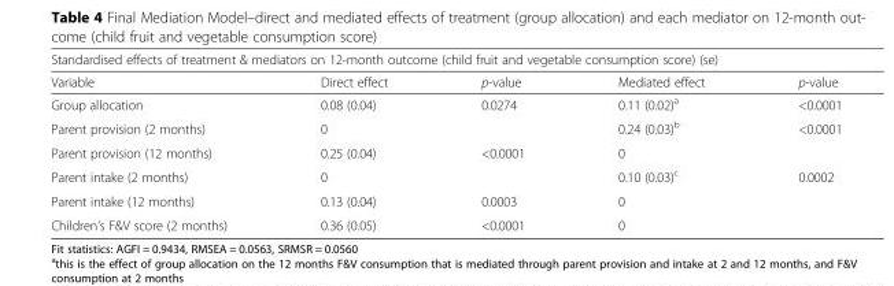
<table><thead><tr><td colspan="5">Standardised effects of treatment &amp; mediators on 12-month outcome (child fruit and vegetable consumption score) (se)</td></tr><tr><td>Variable</td><td>Direct effect</td><td>p-value</td><td>Mediated effect</td><td>p-value</td></tr></thead><tbody><tr><td>Group allocation</td><td>0.08 (0.04)</td><td>0.0274</td><td>0.11 (0.02)<sup>a</sup></td><td>&lt;0.0001</td></tr><tr><td>Parent provision (2 months)</td><td>0</td><td></td><td>0.24 (0.03)<sup>b</sup></td><td>&lt;0.0001</td></tr><tr><td>Parent provision (12 months)</td><td>0.25 (0.04)</td><td>&lt;0.0001</td><td>0</td><td></td></tr><tr><td>Parent intake (2 months)</td><td>0</td><td></td><td>0.10 (0.03)<sup>c</sup></td><td>0.0002</td></tr><tr><td>Parent intake (12 months)</td><td>0.13 (0.04)</td><td>0.0003</td><td>0</td><td></td></tr><tr><td>Children’s F&amp;V score (2 months)</td><td>0.36 (0.05)</td><td>&lt;0.0001</td><td>0</td><td></td></tr></tbody></table>